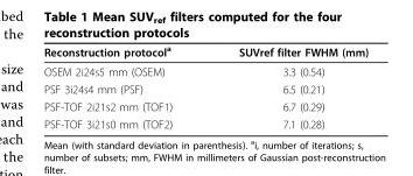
<table><thead><tr><td>Reconstruction protocol<sup>a</sup></td><td>SUVref filter FWHM (mm)</td></tr></thead><tbody><tr><td>OSEM 2i24s5 mm (OSEM)</td><td>3.3 (0.54)</td></tr><tr><td>PSF 3i24s4 mm (PSF)</td><td>6.5 (0.21)</td></tr><tr><td>PSF-TOF 2i21s2 mm (TOF1)</td><td>6.7 (0.29)</td></tr><tr><td>PSF-TOF 3i21s0 mm (TOF2)</td><td>7.1 (0.28)</td></tr></tbody></table>